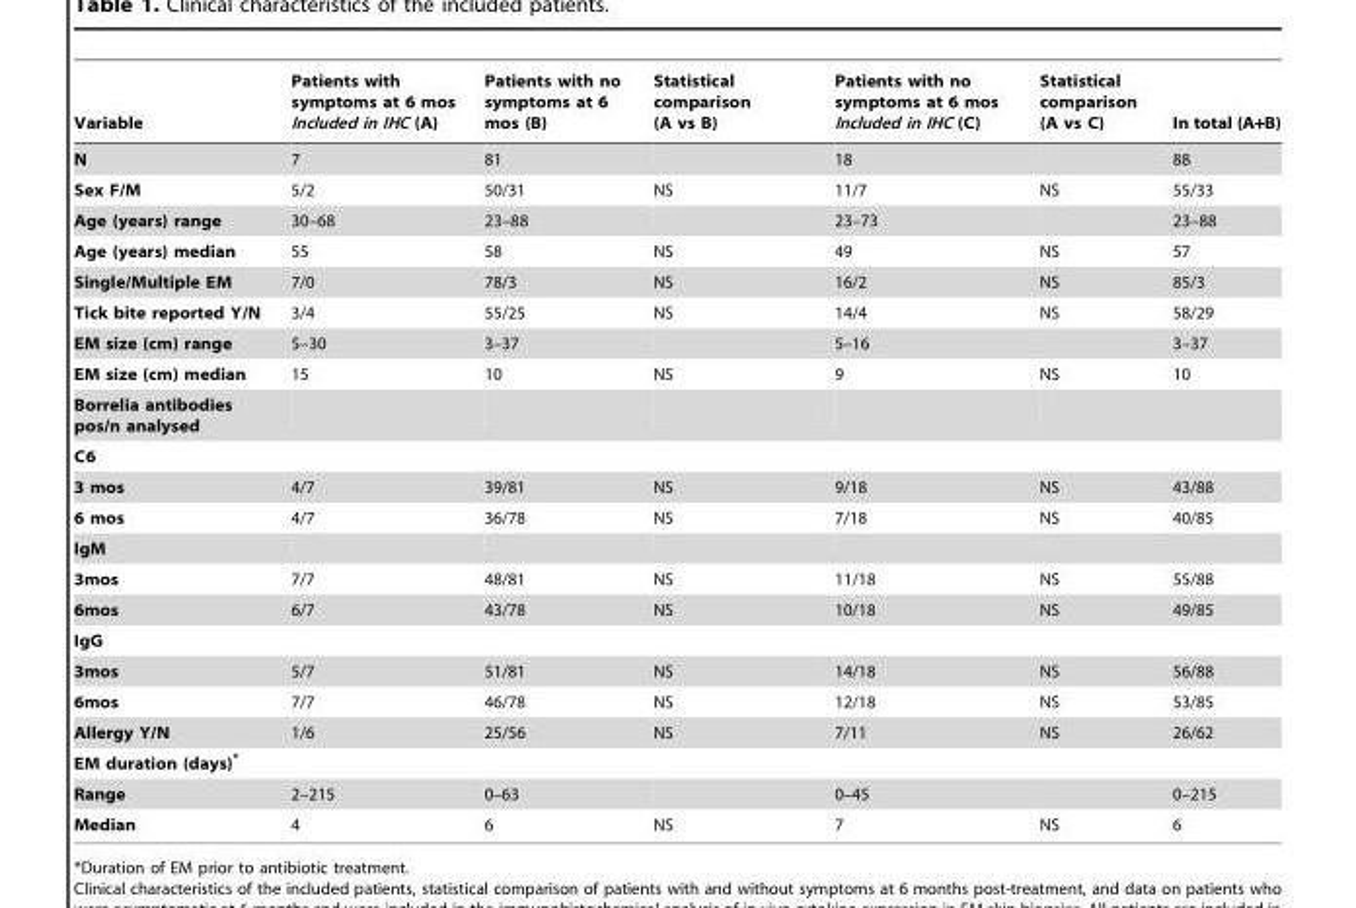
<table><thead><tr><td>Variable</td><td>Patients with symptoms at 6 mos Included in IHC (A)</td><td>Patients with no symptoms at 6 mos (B)</td><td>Statistical comparison (A vs B)</td><td>Patients with no symptoms at 6 mos Included in IHC (C)</td><td>Statistical comparison (A vs C)</td><td>In total (A+B)</td></tr></thead><tbody><tr><td>N</td><td>7</td><td>81</td><td></td><td>18</td><td></td><td>88</td></tr><tr><td>Sex F/M</td><td>5/2</td><td>50/31</td><td>NS</td><td>11/7</td><td>NS</td><td>55/33</td></tr><tr><td>Age (years) range</td><td>30–68</td><td>23–88</td><td></td><td>23–73</td><td></td><td>23–88</td></tr><tr><td>Age (years) median</td><td>55</td><td>58</td><td>NS</td><td>49</td><td>NS</td><td>57</td></tr><tr><td>Single/Multiple EM</td><td>7/0</td><td>78/3</td><td>NS</td><td>16/2</td><td>NS</td><td>85/3</td></tr><tr><td>Tick bite reported Y/N</td><td>3/4</td><td>55/25</td><td>NS</td><td>14/4</td><td>NS</td><td>58/29</td></tr><tr><td>EM size (cm) range</td><td>5–30</td><td>3–37</td><td></td><td>5–16</td><td></td><td>3–37</td></tr><tr><td>EM size (cm) median</td><td>15</td><td>10</td><td>NS</td><td>9</td><td>NS</td><td>10</td></tr><tr><td colspan="7">Borrelia antibodies pos/n analysed</td></tr><tr><td colspan="7">C6</td></tr><tr><td>3 mos</td><td>4/7</td><td>39/81</td><td>NS</td><td>9/18</td><td>NS</td><td>43/88</td></tr><tr><td>6 mos</td><td>4/7</td><td>36/78</td><td>NS</td><td>7/18</td><td>NS</td><td>40/85</td></tr><tr><td colspan="7">IgM</td></tr><tr><td>3mos</td><td>7/7</td><td>48/81</td><td>NS</td><td>11/18</td><td>NS</td><td>55/88</td></tr><tr><td>6mos</td><td>6/7</td><td>43/78</td><td>NS</td><td>10/18</td><td>NS</td><td>49/85</td></tr><tr><td colspan="7">IgG</td></tr><tr><td>3mos</td><td>5/7</td><td>51/81</td><td>NS</td><td>14/18</td><td>NS</td><td>56/88</td></tr><tr><td>6mos</td><td>7/7</td><td>46/78</td><td>NS</td><td>12/18</td><td>NS</td><td>53/85</td></tr><tr><td>Allergy Y/N</td><td>1/6</td><td>25/56</td><td>NS</td><td>7/11</td><td>NS</td><td>26/62</td></tr><tr><td colspan="7">EM duration (days)*</td></tr><tr><td>Range</td><td>2–215</td><td>0–63</td><td></td><td>0–45</td><td></td><td>0–215</td></tr><tr><td>Median</td><td>4</td><td>6</td><td>NS</td><td>7</td><td>NS</td><td>6</td></tr></tbody></table>